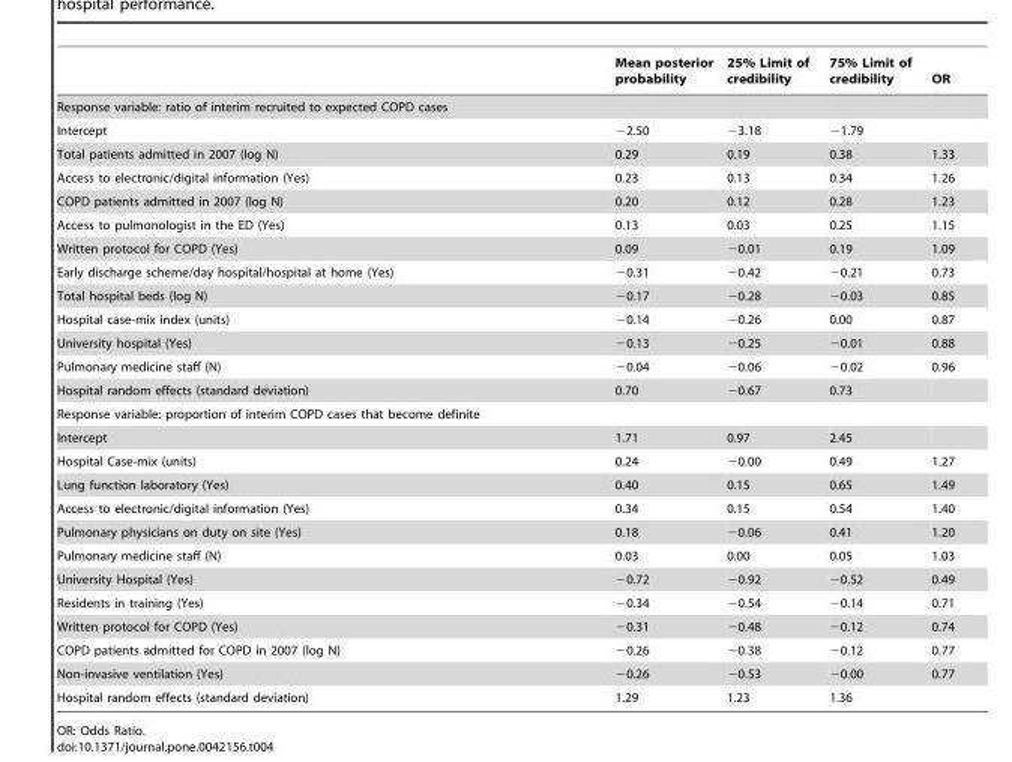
<table><thead><tr><td></td><td>Mean posterior probability</td><td>25% Limit of credibility</td><td>75% Limit of credibility</td><td>OR</td></tr></thead><tbody><tr><td colspan="5">Response variable: ratio of interim recruited to expected COPD cases</td></tr><tr><td>Intercept</td><td>−2.50</td><td>−3.18</td><td>−1.79</td><td></td></tr><tr><td>Total patients admitted in 2007 (log N)</td><td>0.29</td><td>0.19</td><td>0.38</td><td>1.33</td></tr><tr><td>Access to electronic/digital information (Yes)</td><td>0.23</td><td>0.13</td><td>0.34</td><td>1.26</td></tr><tr><td>COPD patients admitted in 2007 (log N)</td><td>0.20</td><td>0.12</td><td>0.28</td><td>1.23</td></tr><tr><td>Access to pulmonologist in the ED (Yes)</td><td>0.13</td><td>0.03</td><td>0.25</td><td>1.15</td></tr><tr><td>Written protocol for COPD (Yes)</td><td>0.09</td><td>−0.01</td><td>0.19</td><td>1.09</td></tr><tr><td>Early discharge scheme/day hospital/hospital at home (Yes)</td><td>−0.31</td><td>−0.42</td><td>−0.21</td><td>0.73</td></tr><tr><td>Total hospital beds (log N)</td><td>−0.17</td><td>−0.28</td><td>−0.03</td><td>0.85</td></tr><tr><td>Hospital case-mix index (units)</td><td>−0.14</td><td>−0.26</td><td>0.00</td><td>0.87</td></tr><tr><td>University hospital (Yes)</td><td>−0.13</td><td>−0.25</td><td>−0.01</td><td>0.88</td></tr><tr><td>Pulmonary medicine staff (N)</td><td>−0.04</td><td>−0.06</td><td>−0.02</td><td>0.96</td></tr><tr><td>Hospital random effects (standard deviation)</td><td>0.70</td><td>−0.67</td><td>0.73</td><td></td></tr><tr><td colspan="5">Response variable: proportion of interim COPD cases that become definite</td></tr><tr><td>Intercept</td><td>1.71</td><td>0.97</td><td>2.45</td><td></td></tr><tr><td>Hospital Case-mix (units)</td><td>0.24</td><td>−0.00</td><td>0.49</td><td>1.27</td></tr><tr><td>Lung function laboratory (Yes)</td><td>0.40</td><td>0.15</td><td>0.65</td><td>1.49</td></tr><tr><td>Access to electronic/digital information (Yes)</td><td>0.34</td><td>0.15</td><td>0.54</td><td>1.40</td></tr><tr><td>Pulmonary physicians on duty on site (Yes)</td><td>0.18</td><td>−0.06</td><td>0.41</td><td>1.20</td></tr><tr><td>Pulmonary medicine staff (N)</td><td>0.03</td><td>0.00</td><td>0.05</td><td>1.03</td></tr><tr><td>University Hospital (Yes)</td><td>−0.72</td><td>−0.92</td><td>−0.52</td><td>0.49</td></tr><tr><td>Residents in training (Yes)</td><td>−0.34</td><td>−0.54</td><td>−0.14</td><td>0.71</td></tr><tr><td>Written protocol for COPD (Yes)</td><td>−0.31</td><td>−0.48</td><td>−0.12</td><td>0.74</td></tr><tr><td>COPD patients admitted for COPD in 2007 (log N)</td><td>−0.26</td><td>−0.38</td><td>−0.12</td><td>0.77</td></tr><tr><td>Non-invasive ventilation (Yes)</td><td>−0.26</td><td>−0.53</td><td>−0.00</td><td>0.77</td></tr><tr><td>Hospital random effects (standard deviation)</td><td>1.29</td><td>1.23</td><td>1.36</td><td></td></tr></tbody></table>